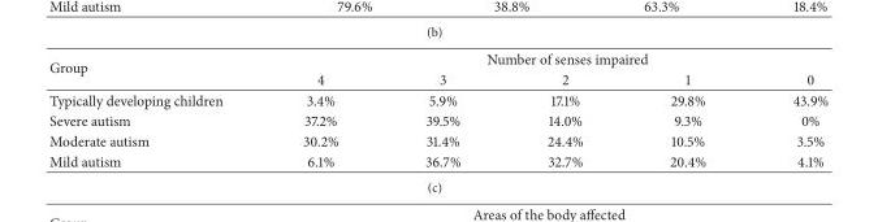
<table><thead><tr><td rowspan="2">Group</td><td colspan="5">Number of senses impaired</td></tr><tr><td>4</td><td>3</td><td>2</td><td>1</td><td>0</td></tr></thead><tbody><tr><td>Typically developing children</td><td>3.4%</td><td>5.9%</td><td>17.1%</td><td>29.8%</td><td>43.9%</td></tr><tr><td>Severe autism</td><td>37.2%</td><td>39.5%</td><td>14.0%</td><td>9.3%</td><td>0%</td></tr><tr><td>Moderate autism</td><td>30.2%</td><td>31.4%</td><td>24.4%</td><td>10.5%</td><td>3.5%</td></tr><tr><td>Mild autism</td><td>6.1%</td><td>36.7%</td><td>32.7%</td><td>20.4%</td><td>4.1%</td></tr></tbody></table>